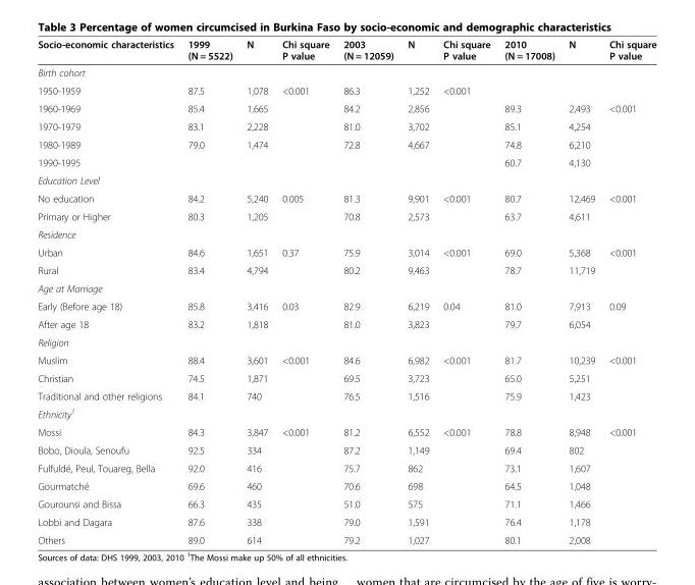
<table><thead><tr><td>Socio-economic characteristics</td><td>1999 (N = 5522)</td><td>N</td><td>Chi square P value</td><td>2003 (N = 12059)</td><td>N</td><td>Chi square P value</td><td>2010 (N = 17008)</td><td>N</td><td>Chi square P value</td></tr></thead><tbody><tr><td colspan="10">Birth cohort</td></tr><tr><td>1950-1959</td><td>87.5</td><td>1,078</td><td>&lt;0.001</td><td>86.3</td><td>1,252</td><td>&lt;0.001</td><td></td><td></td><td></td></tr><tr><td>1960-1969</td><td>85.4</td><td>1,665</td><td></td><td>84.2</td><td>2,856</td><td></td><td>89.3</td><td>2,493</td><td>&lt;0.001</td></tr><tr><td>1970-1979</td><td>83.1</td><td>2,228</td><td></td><td>81.0</td><td>3,702</td><td></td><td>85.1</td><td>4,254</td><td></td></tr><tr><td>1980-1989</td><td>79.0</td><td>1,474</td><td></td><td>72.8</td><td>4,667</td><td></td><td>74.8</td><td>6,210</td><td></td></tr><tr><td>1990-1995</td><td></td><td></td><td></td><td></td><td></td><td></td><td>60.7</td><td>4,130</td><td></td></tr><tr><td colspan="10">Education Level</td></tr><tr><td>No education</td><td>84.2</td><td>5,240</td><td>0.005</td><td>81.3</td><td>9,901</td><td>&lt;0.001</td><td>80.7</td><td>12,469</td><td>&lt;0.001</td></tr><tr><td>Primary or Higher</td><td>80.3</td><td>1,205</td><td></td><td>70.8</td><td>2,573</td><td></td><td>63.7</td><td>4,611</td><td></td></tr><tr><td colspan="10">Residence</td></tr><tr><td>Urban</td><td>84.6</td><td>1,651</td><td>0.37</td><td>75.9</td><td>3,014</td><td>&lt;0.001</td><td>69.0</td><td>5,368</td><td>&lt;0.001</td></tr><tr><td>Rural</td><td>83.4</td><td>4,794</td><td></td><td>80.2</td><td>9,463</td><td></td><td>78.7</td><td>11,719</td><td></td></tr><tr><td colspan="10">Age at Marriage</td></tr><tr><td>Early (Before age 18)</td><td>85.8</td><td>3,416</td><td>0.03</td><td>82.9</td><td>6,219</td><td>0.04</td><td>81.0</td><td>7,913</td><td>0.09</td></tr><tr><td>After age 18</td><td>83.2</td><td>1,818</td><td></td><td>81.0</td><td>3,823</td><td></td><td>79.7</td><td>6,054</td><td></td></tr><tr><td colspan="10">Religion</td></tr><tr><td>Muslim</td><td>88.4</td><td>3,601</td><td>&lt;0.001</td><td>84.6</td><td>6,982</td><td>&lt;0.001</td><td>81.7</td><td>10,239</td><td>&lt;0.001</td></tr><tr><td>Christian</td><td>74.5</td><td>1,871</td><td></td><td>69.5</td><td>3,723</td><td></td><td>65.0</td><td>5,251</td><td></td></tr><tr><td>Traditional and other religions</td><td>84.1</td><td>740</td><td></td><td>76.5</td><td>1,516</td><td></td><td>75.9</td><td>1,423</td><td></td></tr><tr><td colspan="10">Ethnicity<sup>1</sup></td></tr><tr><td>Mossi</td><td>84.3</td><td>3,847</td><td>&lt;0.001</td><td>81.2</td><td>6,552</td><td>&lt;0.001</td><td>78.8</td><td>8,948</td><td>&lt;0.001</td></tr><tr><td>Bobo, Dioula, Senoufu</td><td>92.5</td><td>334</td><td></td><td>87.2</td><td>1,149</td><td></td><td>69.4</td><td>802</td><td></td></tr><tr><td>Fulfuldé, Peul, Touareg, Bella</td><td>92.0</td><td>416</td><td></td><td>75.7</td><td>862</td><td></td><td>73.1</td><td>1,607</td><td></td></tr><tr><td>Gourmatché</td><td>69.6</td><td>460</td><td></td><td>70.6</td><td>698</td><td></td><td>64.5</td><td>1,048</td><td></td></tr><tr><td>Gourounsi and Bissa</td><td>66.3</td><td>435</td><td></td><td>51.0</td><td>575</td><td></td><td>71.1</td><td>1,466</td><td></td></tr><tr><td>Lobbi and Dagara</td><td>87.6</td><td>338</td><td></td><td>79.0</td><td>1,591</td><td></td><td>76.4</td><td>1,178</td><td></td></tr><tr><td>Others</td><td>89.0</td><td>614</td><td></td><td>79.2</td><td>1,027</td><td></td><td>80.1</td><td>2,008</td><td></td></tr></tbody></table>